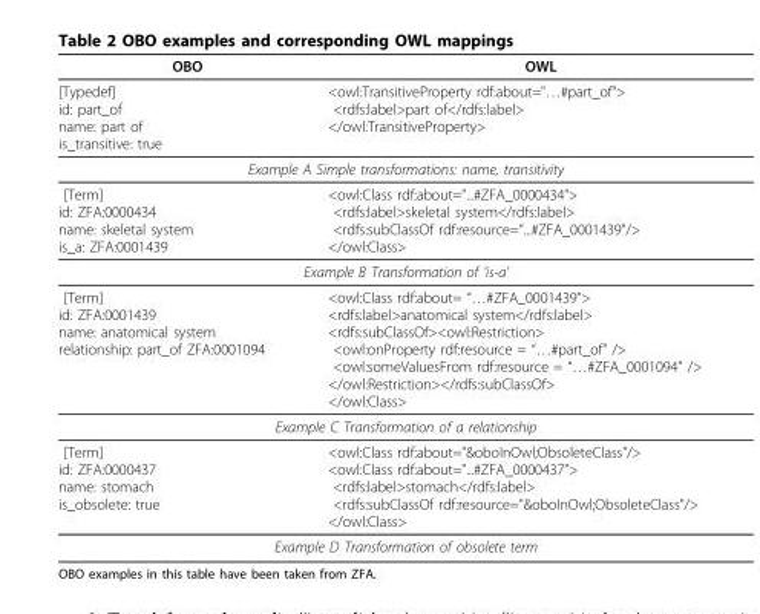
<table><thead><tr><td>OBO</td><td>OWL</td></tr></thead><tbody><tr><td>[Typedef] id: part_of name: part of is_transitive: true</td><td>&lt;owl:TransitiveProperty rdf:about=&quot;…#part_of&quot;&gt; &lt;rdfs:label&gt;part of&lt;/rdfs:label&gt; &lt;/owl:TransitiveProperty&gt;</td></tr><tr><td colspan="2">Example A Simple transformations: name, transitivity</td></tr><tr><td>[Term] id: ZFA:0000434 name: skeletal system is_a: ZFA:0001439</td><td>&lt;owl:Class rdf:about=”...#ZFA_0000434&quot;&gt; &lt;rdfs:label&gt;skeletal system&lt;/rdfs:label&gt; &lt;rdfs:subClassOf rdf:resource=”...#ZFA_0001439&quot;/&gt; &lt;/owl:Class&gt;</td></tr><tr><td colspan="2">Example B Transformation of ‘is-a’</td></tr><tr><td>[Term] id: ZFA:0001439 name: anatomical system relationship: part_of ZFA:0001094</td><td>&lt;owl:Class rdf:about= “…#ZFA_0001439”&gt; &lt;rdfs:label&gt;anatomical system&lt;/rdfs:label&gt; &lt;rdfs:subClassOf&gt;&lt;owl:Restriction&gt; &lt;owl:onProperty rdf:resource = “…#part_of” /&gt; &lt;owl:someValuesFrom rdf:resource = “…#ZFA_0001094” /&gt; &lt;/owl:Restriction&gt;&lt;/rdfs:subClassOf&gt; &lt;/owl:Class&gt;</td></tr><tr><td colspan="2">Example C Transformation of a relationship</td></tr><tr><td>[Term] id: ZFA:0000437 name: stomach is_obsolete: true</td><td>&lt;owl:Class rdf:about=&quot;&amp;oboInOwl;ObsoleteClass&quot;/&gt; &lt;owl:Class rdf:about=”...#ZFA_0000437&quot;&gt; &lt;rdfs:label&gt;stomach&lt;/rdfs:label&gt; &lt;rdfs:subClassOf rdf:resource=&quot;&amp;oboInOwl;ObsoleteClass&quot;/&gt; &lt;/owl:Class&gt;</td></tr><tr><td colspan="2">Example D Transformation of obsolete term</td></tr></tbody></table>